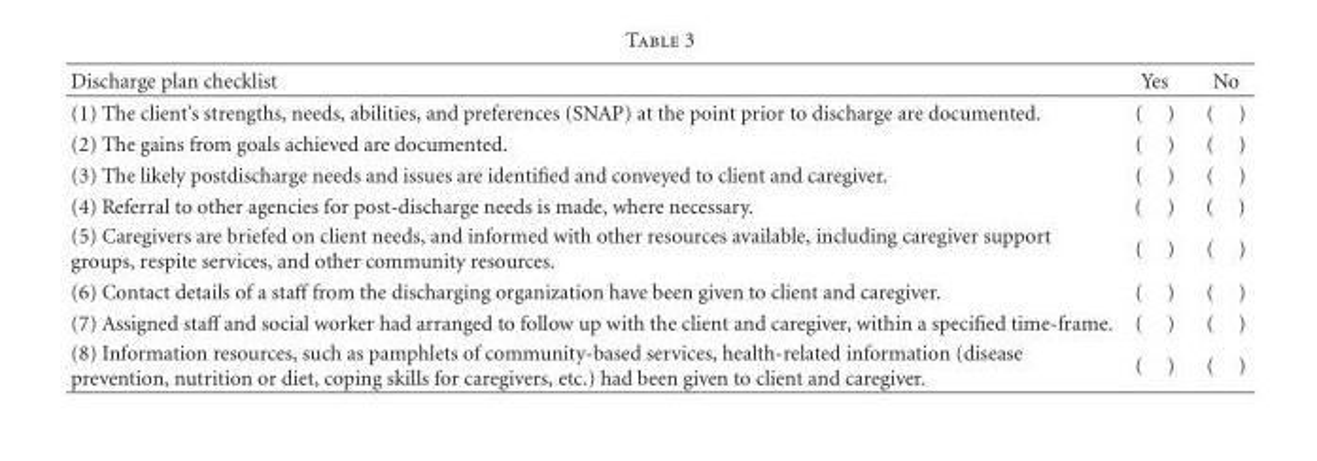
<table><thead><tr><td>Discharge plan checklist</td><td>Yes</td><td>No</td></tr></thead><tbody><tr><td>(1) The client’s strengths, needs, abilities, and preferences (SNAP) at the point prior to discharge are documented.</td><td>( )</td><td>( )</td></tr><tr><td>(2) The gains from goals achieved are documented.</td><td>( )</td><td>( )</td></tr><tr><td>(3) The likely postdischarge needs and issues are identified and conveyed to client and caregiver.</td><td>( )</td><td>( )</td></tr><tr><td>(4) Referral to other agencies for post-discharge needs is made, where necessary.</td><td>( )</td><td>( )</td></tr><tr><td>(5) Caregivers are briefed on client needs, and informed with other resources available, including caregiver support groups, respite services, and other community resources.</td><td>( )</td><td>( )</td></tr><tr><td>(6) Contact details of a staff from the discharging organization have been given to client and caregiver.</td><td>( )</td><td>( )</td></tr><tr><td>(7) Assigned staff and social worker had arranged to follow up with the client and caregiver, within a specified time-frame.</td><td>( )</td><td>( )</td></tr><tr><td>(8) Information resources, such as pamphlets of community-based services, health-related information (disease prevention, nutrition or diet, coping skills for caregivers, etc.) had been given to client and caregiver.</td><td>( )</td><td>( )</td></tr></tbody></table>